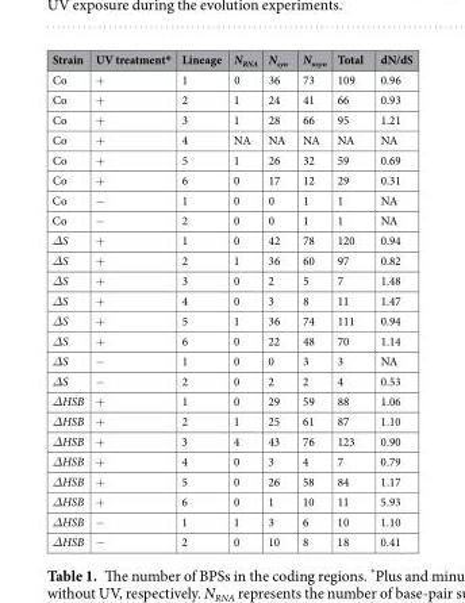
<table><thead><tr><td>Strain</td><td>UV treatment*</td><td>Lineage</td><td>N<sub>RNA</sub></td><td>N<sub>syn</sub></td><td>N<sub>nsyn</sub></td><td>Total</td><td>dN/dS</td></tr></thead><tbody><tr><td>Co</td><td>+</td><td>1</td><td>0</td><td>36</td><td>73</td><td>109</td><td>0.96</td></tr><tr><td>Co</td><td>+</td><td>2</td><td>1</td><td>24</td><td>41</td><td>66</td><td>0.93</td></tr><tr><td>Co</td><td>+</td><td>3</td><td>1</td><td>28</td><td>66</td><td>95</td><td>1.21</td></tr><tr><td>Co</td><td>+</td><td>4</td><td>NA</td><td>NA</td><td>NA</td><td>NA</td><td>NA</td></tr><tr><td>Co</td><td>+</td><td>5</td><td>1</td><td>26</td><td>32</td><td>59</td><td>0.69</td></tr><tr><td>Co</td><td>+</td><td>6</td><td>0</td><td>17</td><td>12</td><td>29</td><td>0.31</td></tr><tr><td>Co</td><td>−</td><td>1</td><td>0</td><td>0</td><td>1</td><td>1</td><td>NA</td></tr><tr><td>Co</td><td>−</td><td>2</td><td>0</td><td>0</td><td>1</td><td>1</td><td>NA</td></tr><tr><td>ΔS</td><td>+</td><td>1</td><td>0</td><td>42</td><td>78</td><td>120</td><td>0.94</td></tr><tr><td>ΔS</td><td>+</td><td>2</td><td>1</td><td>36</td><td>60</td><td>97</td><td>0.82</td></tr><tr><td>ΔS</td><td>+</td><td>3</td><td>0</td><td>2</td><td>5</td><td>7</td><td>1.48</td></tr><tr><td>ΔS</td><td>+</td><td>4</td><td>0</td><td>3</td><td>8</td><td>11</td><td>1.47</td></tr><tr><td>ΔS</td><td>+</td><td>5</td><td>1</td><td>36</td><td>74</td><td>111</td><td>0.94</td></tr><tr><td>ΔS</td><td>+</td><td>6</td><td>0</td><td>22</td><td>48</td><td>70</td><td>1.14</td></tr><tr><td>ΔS</td><td>−</td><td>1</td><td>0</td><td>0</td><td>3</td><td>3</td><td>NA</td></tr><tr><td>ΔS</td><td>−</td><td>2</td><td>0</td><td>2</td><td>2</td><td>4</td><td>0.53</td></tr><tr><td>ΔHSB</td><td>+</td><td>1</td><td>0</td><td>29</td><td>59</td><td>88</td><td>1.06</td></tr><tr><td>ΔHSB</td><td>+</td><td>2</td><td>1</td><td>25</td><td>61</td><td>87</td><td>1.10</td></tr><tr><td>ΔHSB</td><td>+</td><td>3</td><td>4</td><td>43</td><td>76</td><td>123</td><td>0.90</td></tr><tr><td>ΔHSB</td><td>+</td><td>4</td><td>0</td><td>3</td><td>4</td><td>7</td><td>0.79</td></tr><tr><td>ΔHSB</td><td>+</td><td>5</td><td>0</td><td>26</td><td>58</td><td>84</td><td>1.17</td></tr><tr><td>ΔHSB</td><td>+</td><td>6</td><td>0</td><td>1</td><td>10</td><td>11</td><td>5.93</td></tr><tr><td>ΔHSB</td><td>−</td><td>1</td><td>1</td><td>3</td><td>6</td><td>10</td><td>1.10</td></tr><tr><td>ΔHSB</td><td>−</td><td>2</td><td>0</td><td>10</td><td>8</td><td>18</td><td>0.41</td></tr></tbody></table>